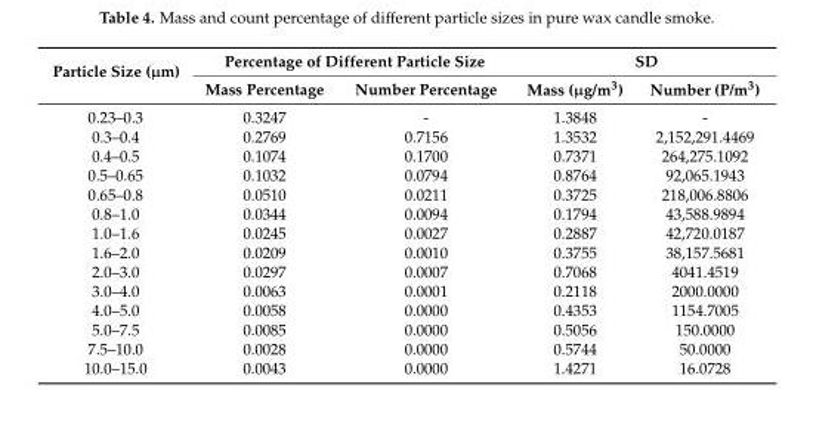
<table><thead><tr><td rowspan="2">Particle Size (µm)</td><td colspan="2">Percentage of Different Particle Size</td><td colspan="2">SD</td></tr><tr><td>Mass Percentage</td><td>Number Percentage</td><td>Mass (µg/m<sup>3</sup>)</td><td>Number (P/m<sup>3</sup>)</td></tr></thead><tbody><tr><td>0.23–0.3</td><td>0.3247</td><td>-</td><td>1.3848</td><td>-</td></tr><tr><td>0.3–0.4</td><td>0.2769</td><td>0.7156</td><td>1.3532</td><td>2,152,291.4469</td></tr><tr><td>0.4–0.5</td><td>0.1074</td><td>0.1700</td><td>0.7371</td><td>264,275.1092</td></tr><tr><td>0.5–0.65</td><td>0.1032</td><td>0.0794</td><td>0.8764</td><td>92,065.1943</td></tr><tr><td>0.65–0.8</td><td>0.0510</td><td>0.0211</td><td>0.3725</td><td>218,006.8806</td></tr><tr><td>0.8–1.0</td><td>0.0344</td><td>0.0094</td><td>0.1794</td><td>43,588.9894</td></tr><tr><td>1.0–1.6</td><td>0.0245</td><td>0.0027</td><td>0.2887</td><td>42,720.0187</td></tr><tr><td>1.6–2.0</td><td>0.0209</td><td>0.0010</td><td>0.3755</td><td>38,157.5681</td></tr><tr><td>2.0–3.0</td><td>0.0297</td><td>0.0007</td><td>0.7068</td><td>4041.4519</td></tr><tr><td>3.0–4.0</td><td>0.0063</td><td>0.0001</td><td>0.2118</td><td>2000.0000</td></tr><tr><td>4.0–5.0</td><td>0.0058</td><td>0.0000</td><td>0.4353</td><td>1154.7005</td></tr><tr><td>5.0–7.5</td><td>0.0085</td><td>0.0000</td><td>0.5056</td><td>150.0000</td></tr><tr><td>7.5–10.0</td><td>0.0028</td><td>0.0000</td><td>0.5744</td><td>50.0000</td></tr><tr><td>10.0–15.0</td><td>0.0043</td><td>0.0000</td><td>1.4271</td><td>16.0728</td></tr></tbody></table>